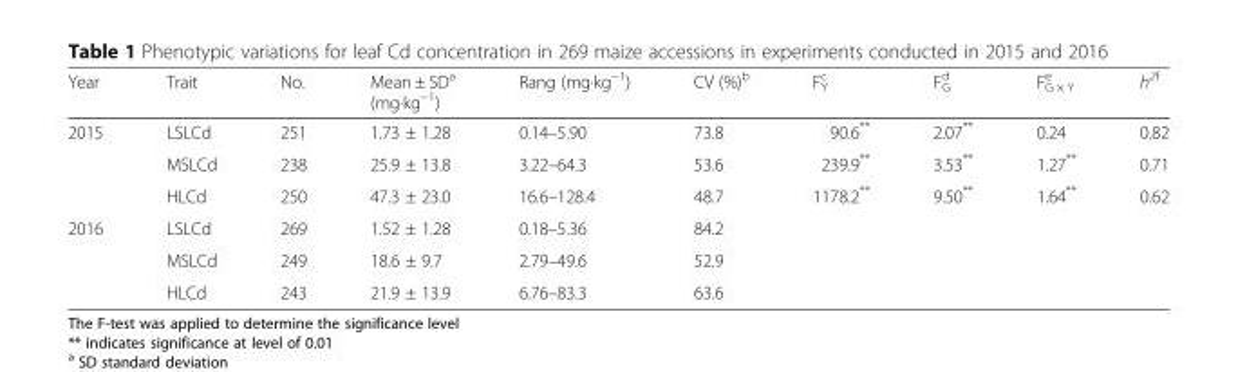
<table><thead><tr><td>Year</td><td>Trait</td><td>No.</td><td>Mean ± SD<sup>a</sup> (mg·kg<sup>−1</sup>)</td><td>Rang (mg·kg<sup>−1</sup>)</td><td>CV (%)<sup>b</sup></td><td>F<sub>Y</sub> <sup>c</sup></td><td>F<sub>G</sub> <sup>d</sup></td><td>F<sub>G × Y</sub> <sup>e</sup></td><td>h<sup>2f</sup></td></tr></thead><tbody><tr><td rowspan="3">2015</td><td>LSLCd</td><td>251</td><td>1.73 ± 1.28</td><td>0.14–5.90</td><td>73.8</td><td>90.6**</td><td>2.07**</td><td>0.24</td><td>0.82</td></tr><tr><td>MSLCd</td><td>238</td><td>25.9 ± 13.8</td><td>3.22–64.3</td><td>53.6</td><td>239.9**</td><td>3.53**</td><td>1.27**</td><td>0.71</td></tr><tr><td>HLCd</td><td>250</td><td>47.3 ± 23.0</td><td>16.6–128.4</td><td>48.7</td><td>1178.2**</td><td>9.50**</td><td>1.64**</td><td>0.62</td></tr><tr><td rowspan="3">2016</td><td>LSLCd</td><td>269</td><td>1.52 ± 1.28</td><td>0.18–5.36</td><td>84.2</td><td></td><td></td><td></td><td></td></tr><tr><td>MSLCd</td><td>249</td><td>18.6 ± 9.7</td><td>2.79–49.6</td><td>52.9</td><td></td><td></td><td></td><td></td></tr><tr><td>HLCd</td><td>243</td><td>21.9 ± 13.9</td><td>6.76–83.3</td><td>63.6</td><td></td><td></td><td></td><td></td></tr></tbody></table>